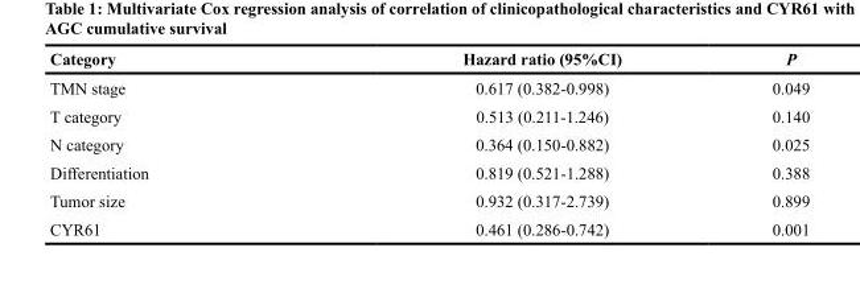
<table><thead><tr><td>Category</td><td>Hazard ratio (95%CI)</td><td>P</td></tr></thead><tbody><tr><td>TMN stage</td><td>0.617 (0.382-0.998)</td><td>0.049</td></tr><tr><td>T category</td><td>0.513 (0.211-1.246)</td><td>0.140</td></tr><tr><td>N category</td><td>0.364 (0.150-0.882)</td><td>0.025</td></tr><tr><td>Differentiation</td><td>0.819 (0.521-1.288)</td><td>0.388</td></tr><tr><td>Tumor size</td><td>0.932 (0.317-2.739)</td><td>0.899</td></tr><tr><td>CYR61</td><td>0.461 (0.286-0.742)</td><td>0.001</td></tr></tbody></table>